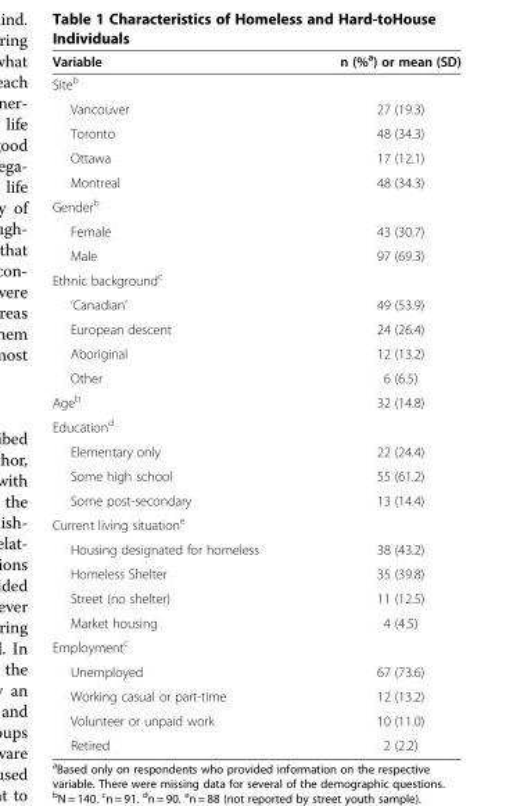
<table><thead><tr><td>Variable</td><td>n (%<sup>a</sup>) or mean (SD)</td></tr></thead><tbody><tr><td colspan="2">Site<sup>b</sup></td></tr><tr><td>Vancouver</td><td>27 (19.3)</td></tr><tr><td>Toronto</td><td>48 (34.3)</td></tr><tr><td>Ottawa</td><td>17 (12.1)</td></tr><tr><td>Montreal</td><td>48 (34.3)</td></tr><tr><td colspan="2">Gender<sup>b</sup></td></tr><tr><td>Female</td><td>43 (30.7)</td></tr><tr><td>Male</td><td>97 (69.3)</td></tr><tr><td colspan="2">Ethnic background<sup>c</sup></td></tr><tr><td>‘Canadian’</td><td>49 (53.9)</td></tr><tr><td>European descent</td><td>24 (26.4)</td></tr><tr><td>Aboriginal</td><td>12 (13.2)</td></tr><tr><td>Other</td><td>6 (6.5)</td></tr><tr><td>Age<sup>b</sup></td><td>32 (14.8)</td></tr><tr><td colspan="2">Education<sup>d</sup></td></tr><tr><td>Elementary only</td><td>22 (24.4)</td></tr><tr><td>Some high school</td><td>55 (61.2)</td></tr><tr><td>Some post-secondary</td><td>13 (14.4)</td></tr><tr><td colspan="2">Current living situation<sup>e</sup></td></tr><tr><td>Housing designated for homeless</td><td>38 (43.2)</td></tr><tr><td>Homeless Shelter</td><td>35 (39.8)</td></tr><tr><td>Street (no shelter)</td><td>11 (12.5)</td></tr><tr><td>Market housing</td><td>4 (4.5)</td></tr><tr><td colspan="2">Employment<sup>c</sup></td></tr><tr><td>Unemployed</td><td>67 (73.6)</td></tr><tr><td>Working casual or part-time</td><td>12 (13.2)</td></tr><tr><td>Volunteer or unpaid work</td><td>10 (11.0)</td></tr><tr><td>Retired</td><td>2 (2.2)</td></tr></tbody></table>